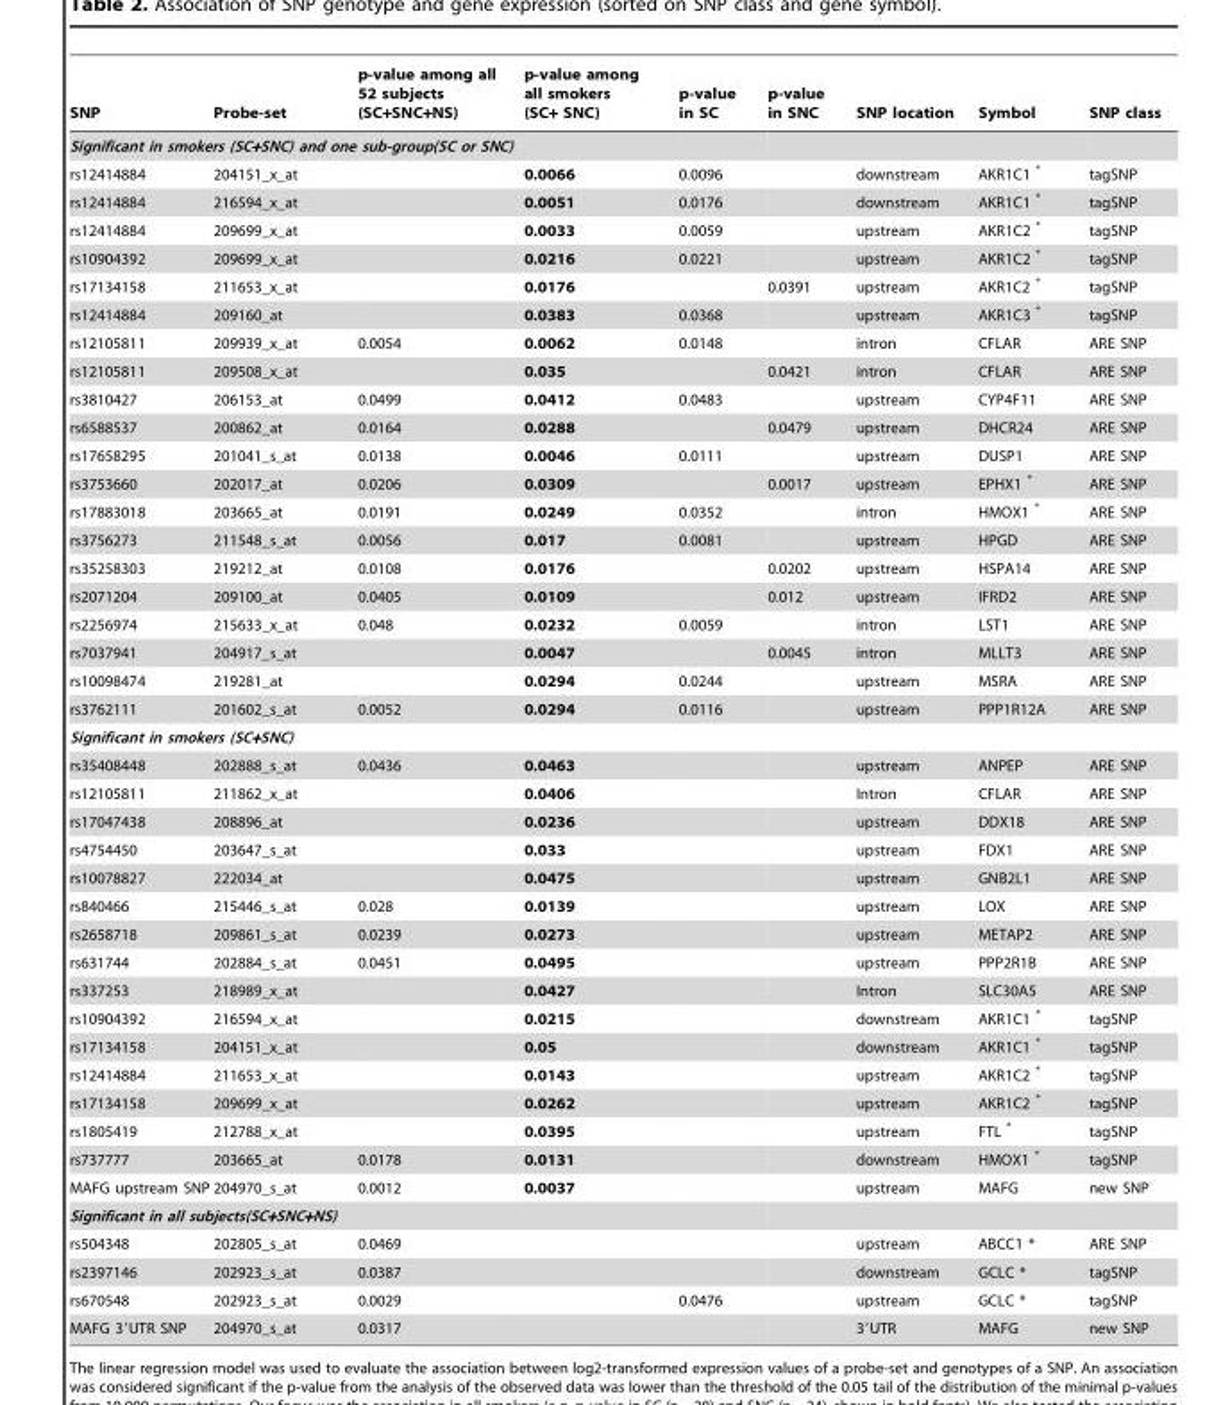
<table><thead><tr><td>SNP</td><td>Probe-set</td><td>p-value among all 52 subjects (SC+SNC+NS)</td><td>p-value among all smokers (SC+ SNC)</td><td>p-value in SC</td><td>p-value in SNC</td><td>SNP location</td><td>Symbol</td><td>SNP class</td></tr></thead><tbody><tr><td colspan="9">Significant in smokers (SC+SNC) and one sub-group(SC or SNC)</td></tr><tr><td>rs12414884</td><td>204151_x_at</td><td></td><td>0.0066</td><td>0.0096</td><td></td><td>downstream</td><td>AKR1C1 *</td><td>tagSNP</td></tr><tr><td>rs12414884</td><td>216594_x_at</td><td></td><td>0.0051</td><td>0.0176</td><td></td><td>downstream</td><td>AKR1C1 *</td><td>tagSNP</td></tr><tr><td>rs12414884</td><td>209699_x_at</td><td></td><td>0.0033</td><td>0.0059</td><td></td><td>upstream</td><td>AKR1C2 *</td><td>tagSNP</td></tr><tr><td>rs10904392</td><td>209699_x_at</td><td></td><td>0.0216</td><td>0.0221</td><td></td><td>upstream</td><td>AKR1C2 *</td><td>tagSNP</td></tr><tr><td>rs17134158</td><td>211653_x_at</td><td></td><td>0.0176</td><td></td><td>0.0391</td><td>upstream</td><td>AKR1C2 *</td><td>tagSNP</td></tr><tr><td>rs12414884</td><td>209160_at</td><td></td><td>0.0383</td><td>0.0368</td><td></td><td>upstream</td><td>AKR1C3 *</td><td>tagSNP</td></tr><tr><td>rs12105811</td><td>209939_x_at</td><td>0.0054</td><td>0.0062</td><td>0.0148</td><td></td><td>intron</td><td>CFLAR</td><td>ARE SNP</td></tr><tr><td>rs12105811</td><td>209508_x_at</td><td></td><td>0.035</td><td></td><td>0.0421</td><td>intron</td><td>CFLAR</td><td>ARE SNP</td></tr><tr><td>rs3810427</td><td>206153_at</td><td>0.0499</td><td>0.0412</td><td>0.0483</td><td></td><td>upstream</td><td>CYP4F11</td><td>ARE SNP</td></tr><tr><td>rs6588537</td><td>200862_at</td><td>0.0164</td><td>0.0288</td><td></td><td>0.0479</td><td>upstream</td><td>DHCR24</td><td>ARE SNP</td></tr><tr><td>rs17658295</td><td>201041_s_at</td><td>0.0138</td><td>0.0046</td><td>0.0111</td><td></td><td>upstream</td><td>DUSP1</td><td>ARE SNP</td></tr><tr><td>rs3753660</td><td>202017_at</td><td>0.0206</td><td>0.0309</td><td></td><td>0.0017</td><td>upstream</td><td>EPHX1 *</td><td>ARE SNP</td></tr><tr><td>rs17883018</td><td>203665_at</td><td>0.0191</td><td>0.0249</td><td>0.0352</td><td></td><td>intron</td><td>HMOX1 *</td><td>ARE SNP</td></tr><tr><td>rs3756273</td><td>211548_s_at</td><td>0.0056</td><td>0.017</td><td>0.0081</td><td></td><td>upstream</td><td>HPGD</td><td>ARE SNP</td></tr><tr><td>rs35258303</td><td>219212_at</td><td>0.0108</td><td>0.0176</td><td></td><td>0.0202</td><td>upstream</td><td>HSPA14</td><td>ARE SNP</td></tr><tr><td>rs2071204</td><td>209100_at</td><td>0.0405</td><td>0.0109</td><td></td><td>0.012</td><td>upstream</td><td>IFRD2</td><td>ARE SNP</td></tr><tr><td>rs2256974</td><td>215633_x_at</td><td>0.048</td><td>0.0232</td><td>0.0059</td><td></td><td>intron</td><td>LST1</td><td>ARE SNP</td></tr><tr><td>rs7037941</td><td>204917_s_at</td><td></td><td>0.0047</td><td></td><td>0.0045</td><td>intron</td><td>MLLT3</td><td>ARE SNP</td></tr><tr><td>rs10098474</td><td>219281_at</td><td></td><td>0.0294</td><td>0.0244</td><td></td><td>upstream</td><td>MSRA</td><td>ARE SNP</td></tr><tr><td>rs3762111</td><td>201602_s_at</td><td>0.0052</td><td>0.0294</td><td>0.0116</td><td></td><td>upstream</td><td>PPP1R12A</td><td>ARE SNP</td></tr><tr><td colspan="9">Significant in smokers (SC+SNC)</td></tr><tr><td>rs35408448</td><td>202888_s_at</td><td>0.0436</td><td>0.0463</td><td></td><td></td><td>upstream</td><td>ANPEP</td><td>ARE SNP</td></tr><tr><td>rs12105811</td><td>211862_x_at</td><td></td><td>0.0406</td><td></td><td></td><td>Intron</td><td>CFLAR</td><td>ARE SNP</td></tr><tr><td>rs17047438</td><td>208896_at</td><td></td><td>0.0236</td><td></td><td></td><td>upstream</td><td>DDX18</td><td>ARE SNP</td></tr><tr><td>rs4754450</td><td>203647_s_at</td><td></td><td>0.033</td><td></td><td></td><td>upstream</td><td>FDX1</td><td>ARE SNP</td></tr><tr><td>rs10078827</td><td>222034_at</td><td></td><td>0.0475</td><td></td><td></td><td>upstream</td><td>GNB2L1</td><td>ARE SNP</td></tr><tr><td>rs840466</td><td>215446_s_at</td><td>0.028</td><td>0.0139</td><td></td><td></td><td>upstream</td><td>LOX</td><td>ARE SNP</td></tr><tr><td>rs2658718</td><td>209861_s_at</td><td>0.0239</td><td>0.0273</td><td></td><td></td><td>upstream</td><td>METAP2</td><td>ARE SNP</td></tr><tr><td>rs631744</td><td>202884_s_at</td><td>0.0451</td><td>0.0495</td><td></td><td></td><td>upstream</td><td>PPP2R1B</td><td>ARE SNP</td></tr><tr><td>rs337253</td><td>218989_x_at</td><td></td><td>0.0427</td><td></td><td></td><td>Intron</td><td>SLC30A5</td><td>ARE SNP</td></tr><tr><td>rs10904392</td><td>216594_x_at</td><td></td><td>0.0215</td><td></td><td></td><td>downstream</td><td>AKR1C1 *</td><td>tagSNP</td></tr><tr><td>rs17134158</td><td>204151_x_at</td><td></td><td>0.05</td><td></td><td></td><td>downstream</td><td>AKR1C1 *</td><td>tagSNP</td></tr><tr><td>rs12414884</td><td>211653_x_at</td><td></td><td>0.0143</td><td></td><td></td><td>upstream</td><td>AKR1C2 *</td><td>tagSNP</td></tr><tr><td>rs17134158</td><td>209699_x_at</td><td></td><td>0.0262</td><td></td><td></td><td>upstream</td><td>AKR1C2 *</td><td>tagSNP</td></tr><tr><td>rs1805419</td><td>212788_x_at</td><td></td><td>0.0395</td><td></td><td></td><td>upstream</td><td>FTL *</td><td>tagSNP</td></tr><tr><td>rs737777</td><td>203665_at</td><td>0.0178</td><td>0.0131</td><td></td><td></td><td>downstream</td><td>HMOX1 *</td><td>tagSNP</td></tr><tr><td>MAFG upstream SNP</td><td>204970_s_at</td><td>0.0012</td><td>0.0037</td><td></td><td></td><td>upstream</td><td>MAFG</td><td>new SNP</td></tr><tr><td colspan="9">Significant in all subjects(SC+SNC+NS)</td></tr><tr><td>rs504348</td><td>202805_s_at</td><td>0.0469</td><td></td><td></td><td></td><td>upstream</td><td>ABCC1 *</td><td>ARE SNP</td></tr><tr><td>rs2397146</td><td>202923_s_at</td><td>0.0387</td><td></td><td></td><td></td><td>downstream</td><td>GCLC *</td><td>tagSNP</td></tr><tr><td>rs670548</td><td>202923_s_at</td><td>0.0029</td><td></td><td>0.0476</td><td></td><td>upstream</td><td>GCLC *</td><td>tagSNP</td></tr><tr><td>MAFG 3′UTR SNP</td><td>204970_s_at</td><td>0.0317</td><td></td><td></td><td></td><td>3′UTR</td><td>MAFG</td><td>new SNP</td></tr></tbody></table>